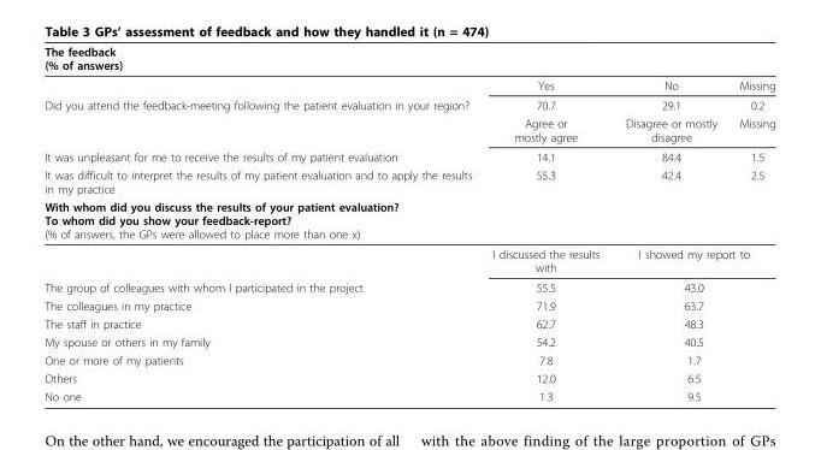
<table><thead><tr><td colspan="4">The feedback (% of answers)</td></tr><tr><td></td><td>Yes</td><td>No</td><td>Missing</td></tr></thead><tbody><tr><td rowspan="2">Did you attend the feedback-meeting following the patient evaluation in your region?</td><td>70.7</td><td>29.1</td><td>0.2</td></tr><tr><td>Agree or mostly agree</td><td>Disagree or mostly disagree</td><td>Missing</td></tr><tr><td>It was unpleasant for me to receive the results of my patient evaluation</td><td>14.1</td><td>84.4</td><td>1.5</td></tr><tr><td>It was difficult to interpret the results of my patient evaluation and to apply the results in my practice</td><td>55.3</td><td>42.4</td><td>2.5</td></tr><tr><td colspan="4">With whom did you discuss the results of your patient evaluation? To whom did you show your feedback-report? (% of answers, the GPs were allowed to place more than one x)</td></tr><tr><td></td><td>I discussed the results with</td><td colspan="2">I showed my report to</td></tr><tr><td>The group of colleagues with whom I participated in the project</td><td>55.5</td><td colspan="2">43.0</td></tr><tr><td>The colleagues in my practice</td><td>71.9</td><td colspan="2">63.7</td></tr><tr><td>The staff in practice</td><td>62.7</td><td colspan="2">48.3</td></tr><tr><td>My spouse or others in my family</td><td>54.2</td><td colspan="2">40.5</td></tr><tr><td>One or more of my patients</td><td>7.8</td><td colspan="2">1.7</td></tr><tr><td>Others</td><td>12.0</td><td colspan="2">6.5</td></tr><tr><td>No one</td><td>1.3</td><td colspan="2">9.5</td></tr></tbody></table>